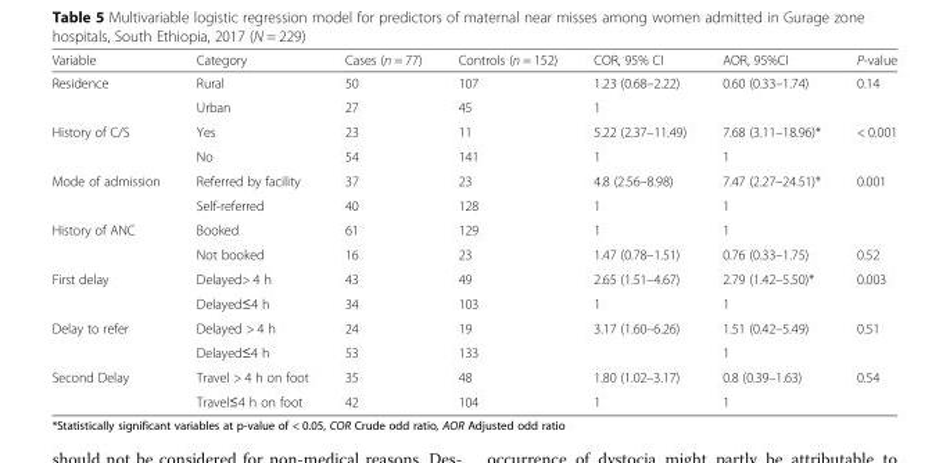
<table><thead><tr><td>Variable</td><td>Category</td><td>Cases (n = 77)</td><td>Controls (n = 152)</td><td>COR, 95% CI</td><td>AOR, 95%CI</td><td>P-value</td></tr></thead><tbody><tr><td rowspan="2">Residence</td><td>Rural</td><td>50</td><td>107</td><td>1.23 (0.68–2.22)</td><td>0.60 (0.33–1.74)</td><td>0.14</td></tr><tr><td>Urban</td><td>27</td><td>45</td><td>1</td><td></td><td></td></tr><tr><td rowspan="2">History of C/S</td><td>Yes</td><td>23</td><td>11</td><td>5.22 (2.37–11.49)</td><td>7.68 (3.11–18.96)*</td><td>&lt; 0.001</td></tr><tr><td>No</td><td>54</td><td>141</td><td>1</td><td>1</td><td></td></tr><tr><td rowspan="2">Mode of admission</td><td>Referred by facility</td><td>37</td><td>23</td><td>4.8 (2.56–8.98)</td><td>7.47 (2.27–24.51)*</td><td>0.001</td></tr><tr><td>Self-referred</td><td>40</td><td>128</td><td>1</td><td>1</td><td></td></tr><tr><td rowspan="2">History of ANC</td><td>Booked</td><td>61</td><td>129</td><td>1</td><td>1</td><td></td></tr><tr><td>Not booked</td><td>16</td><td>23</td><td>1.47 (0.78–1.51)</td><td>0.76 (0.33–1.75)</td><td>0.52</td></tr><tr><td rowspan="2">First delay</td><td>Delayed&gt; 4 h</td><td>43</td><td>49</td><td>2.65 (1.51–4.67)</td><td>2.79 (1.42–5.50)*</td><td>0.003</td></tr><tr><td>Delayed≤4 h</td><td>34</td><td>103</td><td>1</td><td>1</td><td></td></tr><tr><td rowspan="2">Delay to refer</td><td>Delayed &gt; 4 h</td><td>24</td><td>19</td><td>3.17 (1.60–6.26)</td><td>1.51 (0.42–5.49)</td><td>0.51</td></tr><tr><td>Delayed≤4 h</td><td>53</td><td>133</td><td></td><td>1</td><td></td></tr><tr><td rowspan="2">Second Delay</td><td>Travel &gt; 4 h on foot</td><td>35</td><td>48</td><td>1.80 (1.02–3.17)</td><td>0.8 (0.39–1.63)</td><td>0.54</td></tr><tr><td>Travel≤4 h on foot</td><td>42</td><td>104</td><td>1</td><td>1</td><td></td></tr></tbody></table>